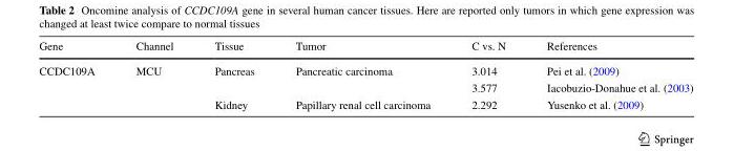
<table><thead><tr><td>Gene</td><td>Channel</td><td>Tissue</td><td>Tumor</td><td>C vs. N</td><td>References</td></tr></thead><tbody><tr><td rowspan="3">CCDC109A</td><td rowspan="3">MCU</td><td rowspan="2">Pancreas</td><td rowspan="2">Pancreatic carcinoma</td><td>3.014</td><td>Pei et al. (2009)</td></tr><tr><td>3.577</td><td>Iacobuzio-Donahue et al. (2003)</td></tr><tr><td>Kidney</td><td>Papillary renal cell carcinoma</td><td>2.292</td><td>Yusenko et al. (2009)</td></tr></tbody></table>